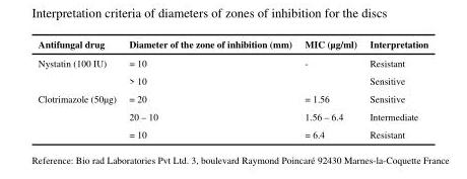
<table><thead><tr><td>Antifungal drug</td><td>Diameter of the zone of inhibition (mm)</td><td>MIC (μg/ml)</td><td>Interpretation</td></tr></thead><tbody><tr><td rowspan="2">Nystatin (100 IU)</td><td>= 10</td><td>-</td><td>Resistant</td></tr><tr><td>&gt; 10</td><td></td><td>Sensitive</td></tr><tr><td rowspan="3">Clotrimazole (50μg)</td><td>= 20</td><td>= 1.56</td><td>Sensitive</td></tr><tr><td>20 – 10</td><td>1.56 – 6.4</td><td>Intermediate</td></tr><tr><td>= 10</td><td>= 6.4</td><td>Resistant</td></tr></tbody></table>